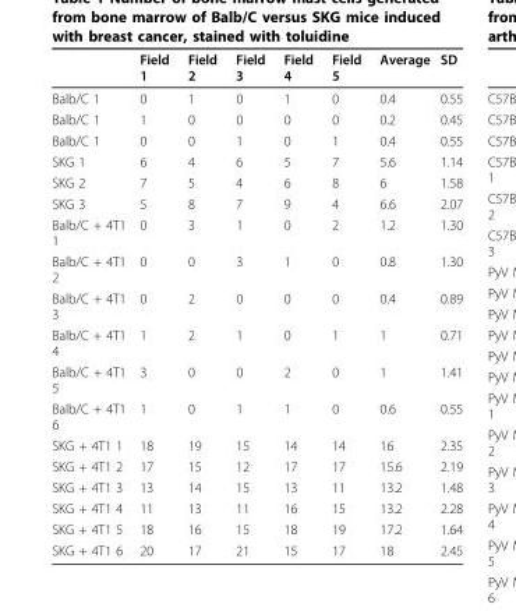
<table><thead><tr><td></td><td>Field 1</td><td>Field 2</td><td>Field 3</td><td>Field 4</td><td>Field 5</td><td>Average</td><td>SD</td></tr></thead><tbody><tr><td>Balb/C 1</td><td>0</td><td>1</td><td>0</td><td>1</td><td>0</td><td>0.4</td><td>0.55</td></tr><tr><td>Balb/C 1</td><td>1</td><td>0</td><td>0</td><td>0</td><td>0</td><td>0.2</td><td>0.45</td></tr><tr><td>Balb/C 1</td><td>0</td><td>0</td><td>1</td><td>0</td><td>1</td><td>0.4</td><td>0.55</td></tr><tr><td>SKG 1</td><td>6</td><td>4</td><td>6</td><td>5</td><td>7</td><td>5.6</td><td>1.14</td></tr><tr><td>SKG 2</td><td>7</td><td>5</td><td>4</td><td>6</td><td>8</td><td>6</td><td>1.58</td></tr><tr><td>SKG 3</td><td>5</td><td>8</td><td>7</td><td>9</td><td>4</td><td>6.6</td><td>2.07</td></tr><tr><td>Balb/C + 4T1 1</td><td>0</td><td>3</td><td>1</td><td>0</td><td>2</td><td>1.2</td><td>1.30</td></tr><tr><td>Balb/C + 4T1 2</td><td>0</td><td>0</td><td>3</td><td>1</td><td>0</td><td>0.8</td><td>1.30</td></tr><tr><td>Balb/C + 4T1 3</td><td>0</td><td>2</td><td>0</td><td>0</td><td>0</td><td>0.4</td><td>0.89</td></tr><tr><td>Balb/C + 4T1 4</td><td>1</td><td>2</td><td>1</td><td>0</td><td>1</td><td>1</td><td>0.71</td></tr><tr><td>Balb/C + 4T1 5</td><td>3</td><td>0</td><td>0</td><td>2</td><td>0</td><td>1</td><td>1.41</td></tr><tr><td>Balb/C + 4T1 6</td><td>1</td><td>0</td><td>1</td><td>1</td><td>0</td><td>0.6</td><td>0.55</td></tr><tr><td>SKG + 4T1 1</td><td>18</td><td>19</td><td>15</td><td>14</td><td>14</td><td>16</td><td>2.35</td></tr><tr><td>SKG + 4T1 2</td><td>17</td><td>15</td><td>12</td><td>17</td><td>17</td><td>15.6</td><td>2.19</td></tr><tr><td>SKG + 4T1 3</td><td>13</td><td>14</td><td>15</td><td>13</td><td>11</td><td>13.2</td><td>1.48</td></tr><tr><td>SKG + 4T1 4</td><td>11</td><td>13</td><td>11</td><td>16</td><td>15</td><td>13.2</td><td>2.28</td></tr><tr><td>SKG + 4T1 5</td><td>18</td><td>16</td><td>15</td><td>18</td><td>19</td><td>17.2</td><td>1.64</td></tr><tr><td>SKG + 4T1 6</td><td>20</td><td>17</td><td>21</td><td>15</td><td>17</td><td>18</td><td>2.45</td></tr></tbody></table>